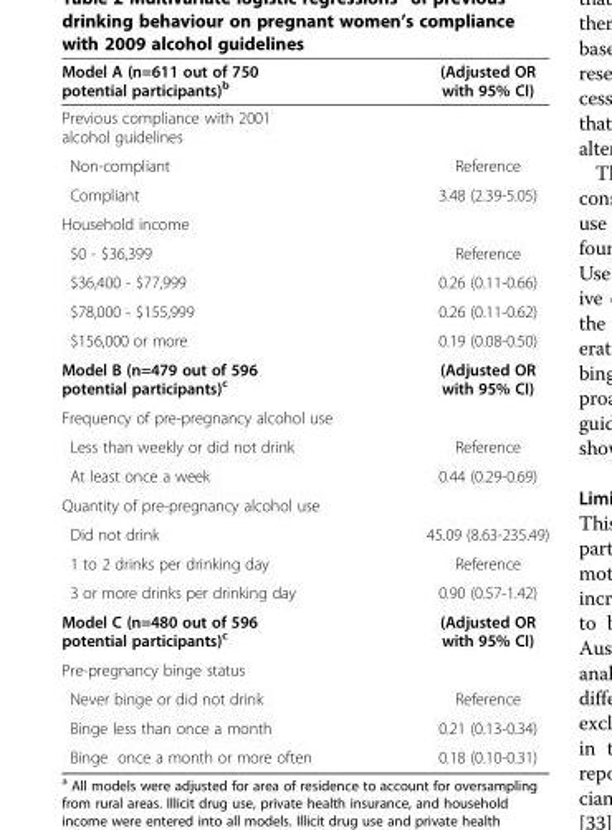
<table><thead><tr><td>Model A (n=611 out of 750 potential participants)<sup>b</sup></td><td>(Adjusted OR with 95% CI)</td></tr></thead><tbody><tr><td colspan="2">Previous compliance with 2001 alcohol guidelines</td></tr><tr><td>Non-compliant</td><td>Reference</td></tr><tr><td>Compliant</td><td>3.48 (2.39-5.05)</td></tr><tr><td colspan="2">Household income</td></tr><tr><td>$0 - $36,399</td><td>Reference</td></tr><tr><td>$36,400 - $77,999</td><td>0.26 (0.11-0.66)</td></tr><tr><td>$78,000 - $155,999</td><td>0.26 (0.11-0.62)</td></tr><tr><td>$156,000 or more</td><td>0.19 (0.08-0.50)</td></tr><tr><td>Model B (n=479 out of 596 potential participants)<sup>c</sup></td><td>(Adjusted OR with 95% CI)</td></tr><tr><td colspan="2">Frequency of pre-pregnancy alcohol use</td></tr><tr><td>Less than weekly or did not drink</td><td>Reference</td></tr><tr><td>At least once a week</td><td>0.44 (0.29-0.69)</td></tr><tr><td colspan="2">Quantity of pre-pregnancy alcohol use</td></tr><tr><td>Did not drink</td><td>45.09 (8.63-235.49)</td></tr><tr><td>1 to 2 drinks per drinking day</td><td>Reference</td></tr><tr><td>3 or more drinks per drinking day</td><td>0.90 (0.57-1.42)</td></tr><tr><td>Model C (n=480 out of 596 potential participants)<sup>c</sup></td><td>(Adjusted OR with 95% CI)</td></tr><tr><td colspan="2">Pre-pregnancy binge status</td></tr><tr><td>Never binge or did not drink</td><td>Reference</td></tr><tr><td>Binge less than once a month</td><td>0.21 (0.13-0.34)</td></tr><tr><td>Binge once a month or more often</td><td>0.18 (0.10-0.31)</td></tr></tbody></table>